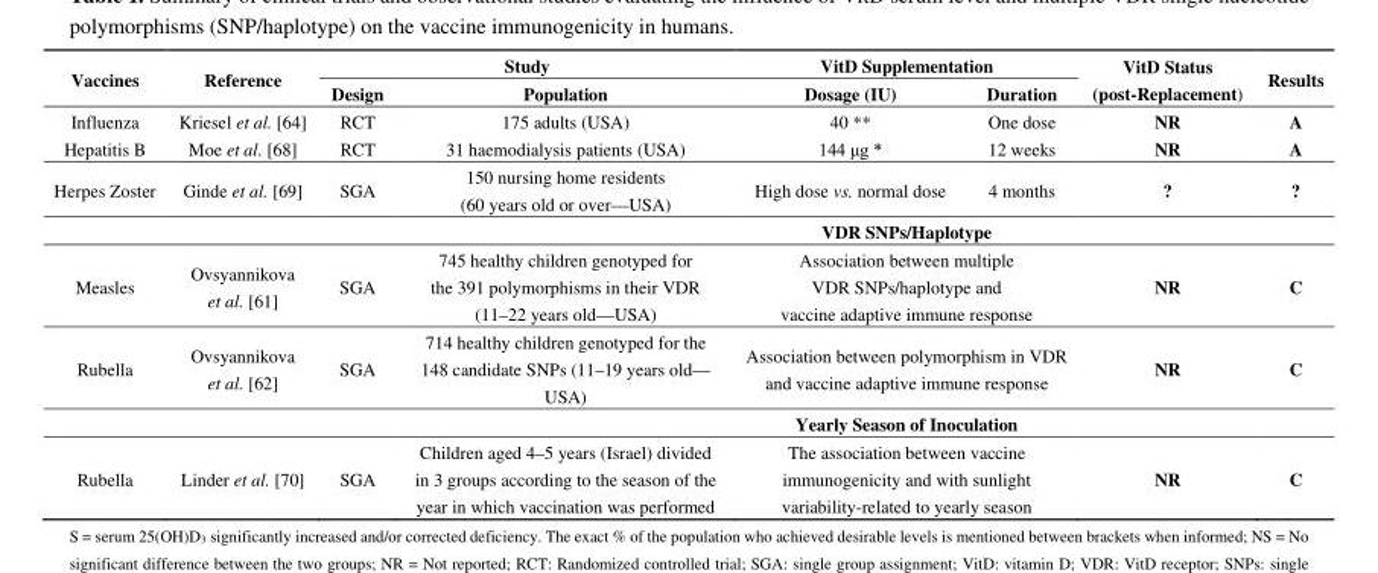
<table><thead><tr><td rowspan="2">Vaccines</td><td rowspan="2">Reference</td><td colspan="2">Study</td><td colspan="2">VitD Supplementation</td><td rowspan="2">VitD Status (post-Replacement)</td><td rowspan="2">Results</td></tr><tr><td>Design</td><td>Population</td><td>Dosage (IU)</td><td>Duration</td></tr></thead><tbody><tr><td>Influenza</td><td>Kriesel et al. [64]</td><td>RCT</td><td>175 adults (USA)</td><td>40 **</td><td>One dose</td><td>NR</td><td>A</td></tr><tr><td>Hepatitis B</td><td>Moe et al. [68]</td><td>RCT</td><td>31 haemodialysis patients (USA)</td><td>144 μg *</td><td>12 weeks</td><td>NR</td><td>A</td></tr><tr><td rowspan="2">Herpes Zoster</td><td>Ginde et al. [69]</td><td>SGA</td><td>150 nursing home residents (60 years old or over—USA)</td><td>High dose vs. normal dose</td><td>4 months</td><td>?</td><td>?</td></tr><tr><td></td><td></td><td></td><td colspan="2">VDR SNPs/Haplotype</td><td></td><td></td></tr><tr><td>Measles</td><td>Ovsyannikova et al. [61]</td><td>SGA</td><td>745 healthy children genotyped for the 391 polymorphisms in their VDR (11–22 years old—USA)</td><td colspan="2">Association between multiple VDR SNPs/haplotype and vaccine adaptive immune response</td><td>NR</td><td>C</td></tr><tr><td rowspan="2">Rubella</td><td>Ovsyannikova et al. [62]</td><td>SGA</td><td>714 healthy children genotyped for the 148 candidate SNPs (11–19 years old— USA)</td><td colspan="2">Association between polymorphism in VDR and vaccine adaptive immune response</td><td>NR</td><td>C</td></tr><tr><td></td><td></td><td></td><td colspan="2">Yearly Season of Inoculation</td><td></td><td></td></tr><tr><td>Rubella</td><td>Linder et al. [70]</td><td>SGA</td><td>Children aged 4–5 years (Israel) divided in 3 groups according to the season of the year in which vaccination was performed</td><td colspan="2">The association between vaccine immunogenicity and with sunlight variability-related to yearly season</td><td>NR</td><td>C</td></tr></tbody></table>